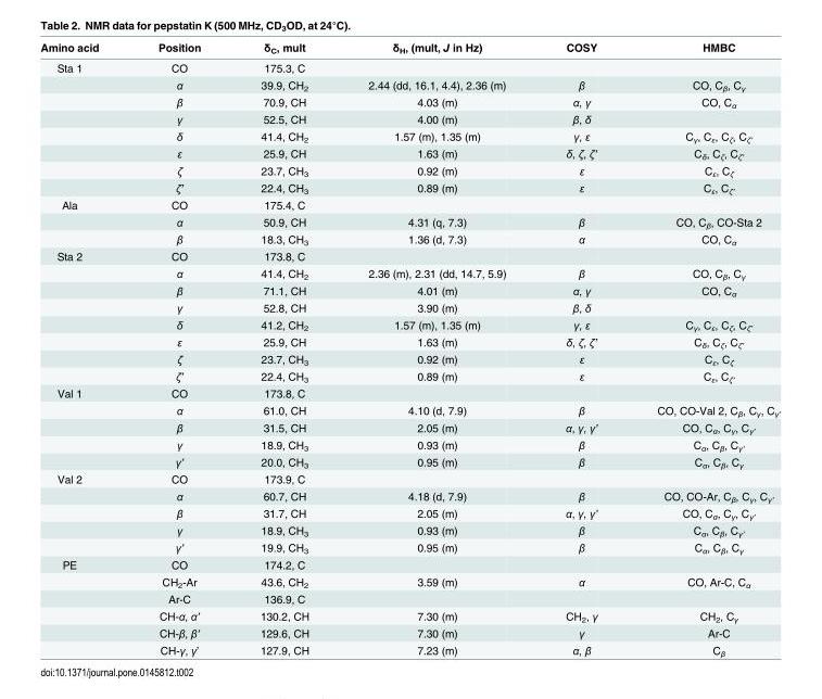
<table><thead><tr><td>Amino acid</td><td>Position</td><td>δ<sub>C</sub>, mult</td><td>δ<sub>H</sub>, (mult, J in Hz)</td><td>COSY</td><td>HMBC</td></tr></thead><tbody><tr><td rowspan="8">Sta 1</td><td>CO</td><td>175.3, C</td><td></td><td></td><td></td></tr><tr><td>α</td><td>39.9, CH<sub>2</sub></td><td>2.44 (dd, 16.1, 4.4), 2.36 (m)</td><td>β</td><td>CO, C<sub>β</sub>, C<sub>γ</sub></td></tr><tr><td>β</td><td>70.9, CH</td><td>4.03 (m)</td><td>α, γ</td><td>CO, C<sub>α</sub></td></tr><tr><td>γ</td><td>52.5, CH</td><td>4.00 (m)</td><td>β, δ</td><td></td></tr><tr><td>δ</td><td>41.4, CH<sub>2</sub></td><td>1.57 (m), 1.35 (m)</td><td>γ, ε</td><td>C<sub>γ</sub>, C<sub>ε</sub>, C<sub>ζ</sub>, C<sub>ζ’</sub></td></tr><tr><td>ε</td><td>25.9, CH</td><td>1.63 (m)</td><td>δ, ζ, ζ’</td><td>C<sub>δ</sub>, C<sub>ζ</sub>, C<sub>ζ’</sub></td></tr><tr><td>ζ</td><td>23.7, CH<sub>3</sub></td><td>0.92 (m)</td><td>ε</td><td>C<sub>ε</sub>, C<sub>ζ</sub></td></tr><tr><td>ζ’</td><td>22.4, CH<sub>3</sub></td><td>0.89 (m)</td><td>ε</td><td>C<sub>ε</sub>, C<sub>ζ’</sub></td></tr><tr><td rowspan="3">Ala</td><td>CO</td><td>175.4, C</td><td></td><td></td><td></td></tr><tr><td>α</td><td>50.9, CH</td><td>4.31 (q, 7.3)</td><td>β</td><td>CO, C<sub>β</sub>, CO-Sta 2</td></tr><tr><td>β</td><td>18.3, CH<sub>3</sub></td><td>1.36 (d, 7.3)</td><td>α</td><td>CO, C<sub>α</sub></td></tr><tr><td rowspan="8">Sta 2</td><td>CO</td><td>173.8, C</td><td></td><td></td><td></td></tr><tr><td>α</td><td>41.4, CH<sub>2</sub></td><td>2.36 (m), 2.31 (dd, 14.7, 5.9)</td><td>β</td><td>CO, C<sub>β</sub>, C<sub>γ</sub></td></tr><tr><td>β</td><td>71.1, CH</td><td>4.01 (m)</td><td>α, γ</td><td>CO, C<sub>α</sub></td></tr><tr><td>γ</td><td>52.8, CH</td><td>3.90 (m)</td><td>β, δ</td><td></td></tr><tr><td>δ</td><td>41.2, CH<sub>2</sub></td><td>1.57 (m), 1.35 (m)</td><td>γ, ε</td><td>C<sub>γ</sub>, C<sub>ε</sub>, C<sub>ζ</sub>, C<sub>ζ’</sub></td></tr><tr><td>ε</td><td>25.9, CH</td><td>1.63 (m)</td><td>δ, ζ, ζ’</td><td>C<sub>δ</sub>, C<sub>ζ</sub>, C<sub>ζ’</sub></td></tr><tr><td>ζ</td><td>23.7, CH<sub>3</sub></td><td>0.92 (m)</td><td>ε</td><td>C<sub>ε</sub>, C<sub>ζ</sub></td></tr><tr><td>ζ’</td><td>22.4, CH<sub>3</sub></td><td>0.89 (m)</td><td>ε</td><td>C<sub>ε</sub>, C<sub>ζ’</sub></td></tr><tr><td rowspan="5">Val 1</td><td>CO</td><td>173.8, C</td><td></td><td></td><td></td></tr><tr><td>α</td><td>61.0, CH</td><td>4.10 (d, 7.9)</td><td>β</td><td>CO, CO-Val 2, C<sub>β</sub>, C<sub>γ</sub>, C<sub>γ’</sub></td></tr><tr><td>β</td><td>31.5, CH</td><td>2.05 (m)</td><td>α, γ, γ’</td><td>CO, C<sub>α</sub>, C<sub>γ</sub>, C<sub>γ’</sub></td></tr><tr><td>γ</td><td>18.9, CH<sub>3</sub></td><td>0.93 (m)</td><td>β</td><td>C<sub>α</sub>, C<sub>β</sub>, C<sub>γ’</sub></td></tr><tr><td>γ’</td><td>20.0, CH<sub>3</sub></td><td>0.95 (m)</td><td>β</td><td>C<sub>α</sub>, C<sub>β</sub>, C<sub>γ</sub></td></tr><tr><td rowspan="5">Val 2</td><td>CO</td><td>173.9, C</td><td></td><td></td><td></td></tr><tr><td>α</td><td>60.7, CH</td><td>4.18 (d, 7.9)</td><td>β</td><td>CO, CO-Ar, C<sub>β</sub>, C<sub>γ</sub>, C<sub>γ’</sub></td></tr><tr><td>β</td><td>31.7, CH</td><td>2.05 (m)</td><td>α, γ, γ’</td><td>CO, C<sub>α</sub>, C<sub>γ</sub>, C<sub>γ’</sub></td></tr><tr><td>γ</td><td>18.9, CH<sub>3</sub></td><td>0.93 (m)</td><td>β</td><td>C<sub>α</sub>, C<sub>β</sub>, C<sub>γ’</sub></td></tr><tr><td>γ’</td><td>19.9, CH<sub>3</sub></td><td>0.95 (m)</td><td>β</td><td>C<sub>α</sub>, C<sub>β</sub>, C<sub>γ</sub></td></tr><tr><td rowspan="6">PE</td><td>CO</td><td>174.2, C</td><td></td><td></td><td></td></tr><tr><td>CH<sub>2</sub>-Ar</td><td>43.6, CH<sub>2</sub></td><td>3.59 (m)</td><td>α</td><td>CO, Ar-C, C<sub>α</sub></td></tr><tr><td>Ar-C</td><td>136.9, C</td><td></td><td></td><td></td></tr><tr><td>CH-α, α’</td><td>130.2, CH</td><td>7.30 (m)</td><td>CH<sub>2</sub>, γ</td><td>CH<sub>2</sub>, C<sub>γ</sub></td></tr><tr><td>CH-β, β’</td><td>129.6, CH</td><td>7.30 (m)</td><td>γ</td><td>Ar-C</td></tr><tr><td>CH-γ, γ’</td><td>127.9, CH</td><td>7.23 (m)</td><td>α, β</td><td>C<sub>β</sub></td></tr></tbody></table>